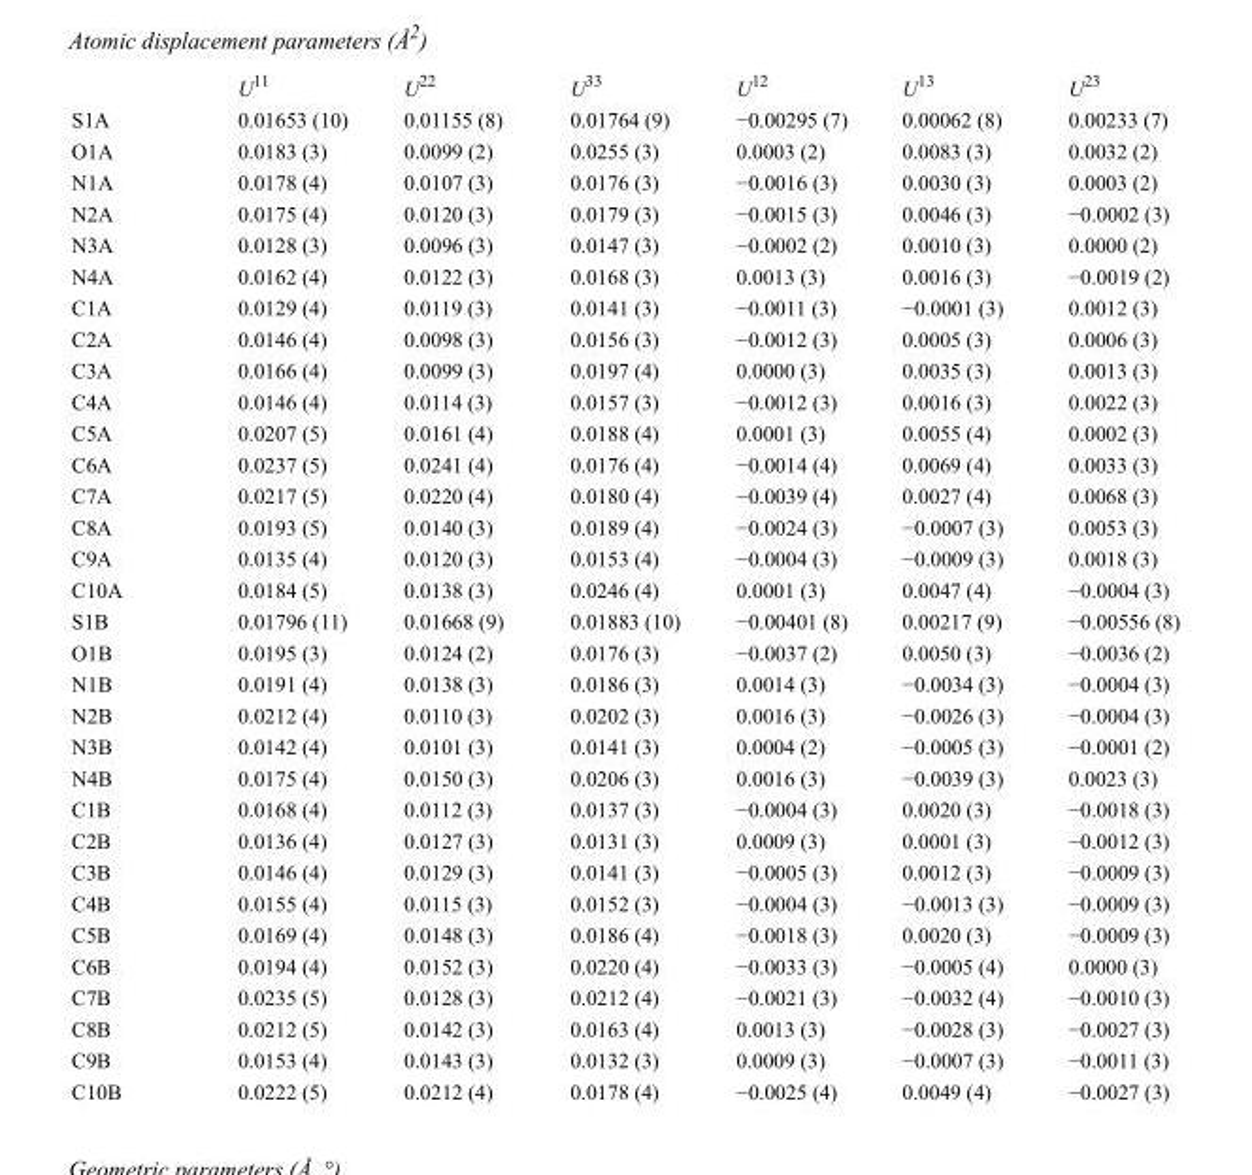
<table><thead><tr><td></td><td>U<sup>11</sup></td><td>U<sup>22</sup></td><td>U<sup>33</sup></td><td>U<sup>12</sup></td><td>U<sup>13</sup></td><td>U<sup>23</sup></td></tr></thead><tbody><tr><td>S1A</td><td>0.01653 (10)</td><td>0.01155 (8)</td><td>0.01764 (9)</td><td>−0.00295 (7)</td><td>0.00062 (8)</td><td>0.00233 (7)</td></tr><tr><td>O1A</td><td>0.0183 (3)</td><td>0.0099 (2)</td><td>0.0255 (3)</td><td>0.0003 (2)</td><td>0.0083 (3)</td><td>0.0032 (2)</td></tr><tr><td>N1A</td><td>0.0178 (4)</td><td>0.0107 (3)</td><td>0.0176 (3)</td><td>−0.0016 (3)</td><td>0.0030 (3)</td><td>0.0003 (2)</td></tr><tr><td>N2A</td><td>0.0175 (4)</td><td>0.0120 (3)</td><td>0.0179 (3)</td><td>−0.0015 (3)</td><td>0.0046 (3)</td><td>−0.0002 (3)</td></tr><tr><td>N3A</td><td>0.0128 (3)</td><td>0.0096 (3)</td><td>0.0147 (3)</td><td>−0.0002 (2)</td><td>0.0010 (3)</td><td>0.0000 (2)</td></tr><tr><td>N4A</td><td>0.0162 (4)</td><td>0.0122 (3)</td><td>0.0168 (3)</td><td>0.0013 (3)</td><td>0.0016 (3)</td><td>−0.0019 (2)</td></tr><tr><td>C1A</td><td>0.0129 (4)</td><td>0.0119 (3)</td><td>0.0141 (3)</td><td>−0.0011 (3)</td><td>−0.0001 (3)</td><td>0.0012 (3)</td></tr><tr><td>C2A</td><td>0.0146 (4)</td><td>0.0098 (3)</td><td>0.0156 (3)</td><td>−0.0012 (3)</td><td>0.0005 (3)</td><td>0.0006 (3)</td></tr><tr><td>C3A</td><td>0.0166 (4)</td><td>0.0099 (3)</td><td>0.0197 (4)</td><td>0.0000 (3)</td><td>0.0035 (3)</td><td>0.0013 (3)</td></tr><tr><td>C4A</td><td>0.0146 (4)</td><td>0.0114 (3)</td><td>0.0157 (3)</td><td>−0.0012 (3)</td><td>0.0016 (3)</td><td>0.0022 (3)</td></tr><tr><td>C5A</td><td>0.0207 (5)</td><td>0.0161 (4)</td><td>0.0188 (4)</td><td>0.0001 (3)</td><td>0.0055 (4)</td><td>0.0002 (3)</td></tr><tr><td>C6A</td><td>0.0237 (5)</td><td>0.0241 (4)</td><td>0.0176 (4)</td><td>−0.0014 (4)</td><td>0.0069 (4)</td><td>0.0033 (3)</td></tr><tr><td>C7A</td><td>0.0217 (5)</td><td>0.0220 (4)</td><td>0.0180 (4)</td><td>−0.0039 (4)</td><td>0.0027 (4)</td><td>0.0068 (3)</td></tr><tr><td>C8A</td><td>0.0193 (5)</td><td>0.0140 (3)</td><td>0.0189 (4)</td><td>−0.0024 (3)</td><td>−0.0007 (3)</td><td>0.0053 (3)</td></tr><tr><td>C9A</td><td>0.0135 (4)</td><td>0.0120 (3)</td><td>0.0153 (4)</td><td>−0.0004 (3)</td><td>−0.0009 (3)</td><td>0.0018 (3)</td></tr><tr><td>C10A</td><td>0.0184 (5)</td><td>0.0138 (3)</td><td>0.0246 (4)</td><td>0.0001 (3)</td><td>0.0047 (4)</td><td>−0.0004 (3)</td></tr><tr><td>S1B</td><td>0.01796 (11)</td><td>0.01668 (9)</td><td>0.01883 (10)</td><td>−0.00401 (8)</td><td>0.00217 (9)</td><td>−0.00556 (8)</td></tr><tr><td>O1B</td><td>0.0195 (3)</td><td>0.0124 (2)</td><td>0.0176 (3)</td><td>−0.0037 (2)</td><td>0.0050 (3)</td><td>−0.0036 (2)</td></tr><tr><td>N1B</td><td>0.0191 (4)</td><td>0.0138 (3)</td><td>0.0186 (3)</td><td>0.0014 (3)</td><td>−0.0034 (3)</td><td>−0.0004 (3)</td></tr><tr><td>N2B</td><td>0.0212 (4)</td><td>0.0110 (3)</td><td>0.0202 (3)</td><td>0.0016 (3)</td><td>−0.0026 (3)</td><td>−0.0004 (3)</td></tr><tr><td>N3B</td><td>0.0142 (4)</td><td>0.0101 (3)</td><td>0.0141 (3)</td><td>0.0004 (2)</td><td>−0.0005 (3)</td><td>−0.0001 (2)</td></tr><tr><td>N4B</td><td>0.0175 (4)</td><td>0.0150 (3)</td><td>0.0206 (3)</td><td>0.0016 (3)</td><td>−0.0039 (3)</td><td>0.0023 (3)</td></tr><tr><td>C1B</td><td>0.0168 (4)</td><td>0.0112 (3)</td><td>0.0137 (3)</td><td>−0.0004 (3)</td><td>0.0020 (3)</td><td>−0.0018 (3)</td></tr><tr><td>C2B</td><td>0.0136 (4)</td><td>0.0127 (3)</td><td>0.0131 (3)</td><td>0.0009 (3)</td><td>0.0001 (3)</td><td>−0.0012 (3)</td></tr><tr><td>C3B</td><td>0.0146 (4)</td><td>0.0129 (3)</td><td>0.0141 (3)</td><td>−0.0005 (3)</td><td>0.0012 (3)</td><td>−0.0009 (3)</td></tr><tr><td>C4B</td><td>0.0155 (4)</td><td>0.0115 (3)</td><td>0.0152 (3)</td><td>−0.0004 (3)</td><td>−0.0013 (3)</td><td>−0.0009 (3)</td></tr><tr><td>C5B</td><td>0.0169 (4)</td><td>0.0148 (3)</td><td>0.0186 (4)</td><td>−0.0018 (3)</td><td>0.0020 (3)</td><td>−0.0009 (3)</td></tr><tr><td>C6B</td><td>0.0194 (4)</td><td>0.0152 (3)</td><td>0.0220 (4)</td><td>−0.0033 (3)</td><td>−0.0005 (4)</td><td>0.0000 (3)</td></tr><tr><td>C7B</td><td>0.0235 (5)</td><td>0.0128 (3)</td><td>0.0212 (4)</td><td>−0.0021 (3)</td><td>−0.0032 (4)</td><td>−0.0010 (3)</td></tr><tr><td>C8B</td><td>0.0212 (5)</td><td>0.0142 (3)</td><td>0.0163 (4)</td><td>0.0013 (3)</td><td>−0.0028 (3)</td><td>−0.0027 (3)</td></tr><tr><td>C9B</td><td>0.0153 (4)</td><td>0.0143 (3)</td><td>0.0132 (3)</td><td>0.0009 (3)</td><td>−0.0007 (3)</td><td>−0.0011 (3)</td></tr><tr><td>C10B</td><td>0.0222 (5)</td><td>0.0212 (4)</td><td>0.0178 (4)</td><td>−0.0025 (4)</td><td>0.0049 (4)</td><td>−0.0027 (3)</td></tr></tbody></table>